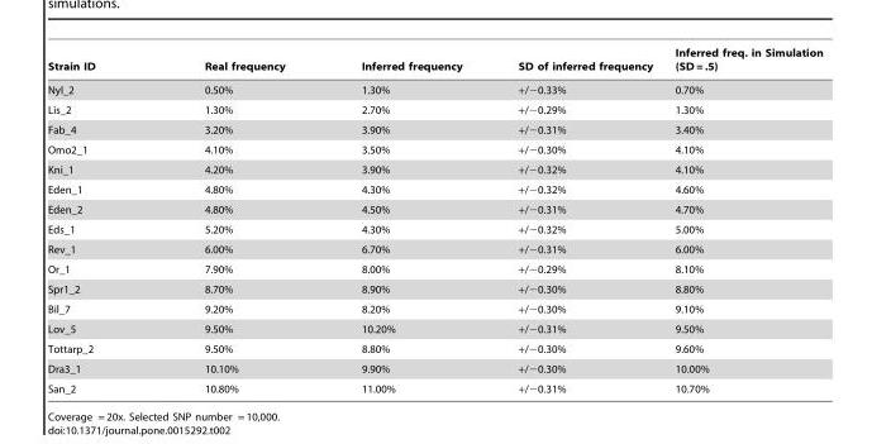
<table><thead><tr><td>Strain ID</td><td>Real frequency</td><td>Inferred frequency</td><td>SD of inferred frequency</td><td>Inferred freq. in Simulation (SD = .5)</td></tr></thead><tbody><tr><td>Nyl_2</td><td>0.50%</td><td>1.30%</td><td>+/−0.33%</td><td>0.70%</td></tr><tr><td>Lis_2</td><td>1.30%</td><td>2.70%</td><td>+/−0.29%</td><td>1.30%</td></tr><tr><td>Fab_4</td><td>3.20%</td><td>3.90%</td><td>+/−0.31%</td><td>3.40%</td></tr><tr><td>Omo2_1</td><td>4.10%</td><td>3.50%</td><td>+/−0.30%</td><td>4.10%</td></tr><tr><td>Kni_1</td><td>4.20%</td><td>3.90%</td><td>+/−0.32%</td><td>4.10%</td></tr><tr><td>Eden_1</td><td>4.80%</td><td>4.30%</td><td>+/−0.32%</td><td>4.60%</td></tr><tr><td>Eden_2</td><td>4.80%</td><td>4.50%</td><td>+/−0.31%</td><td>4.70%</td></tr><tr><td>Eds_1</td><td>5.20%</td><td>4.30%</td><td>+/−0.32%</td><td>5.00%</td></tr><tr><td>Rev_1</td><td>6.00%</td><td>6.70%</td><td>+/−0.31%</td><td>6.00%</td></tr><tr><td>Or_1</td><td>7.90%</td><td>8.00%</td><td>+/−0.29%</td><td>8.10%</td></tr><tr><td>Spr1_2</td><td>8.70%</td><td>8.90%</td><td>+/−0.30%</td><td>8.80%</td></tr><tr><td>Bil_7</td><td>9.20%</td><td>8.20%</td><td>+/−0.30%</td><td>9.10%</td></tr><tr><td>Lov_5</td><td>9.50%</td><td>10.20%</td><td>+/−0.31%</td><td>9.50%</td></tr><tr><td>Tottarp_2</td><td>9.50%</td><td>8.80%</td><td>+/−0.30%</td><td>9.60%</td></tr><tr><td>Dra3_1</td><td>10.10%</td><td>9.90%</td><td>+/−0.30%</td><td>10.00%</td></tr><tr><td>San_2</td><td>10.80%</td><td>11.00%</td><td>+/−0.31%</td><td>10.70%</td></tr></tbody></table>